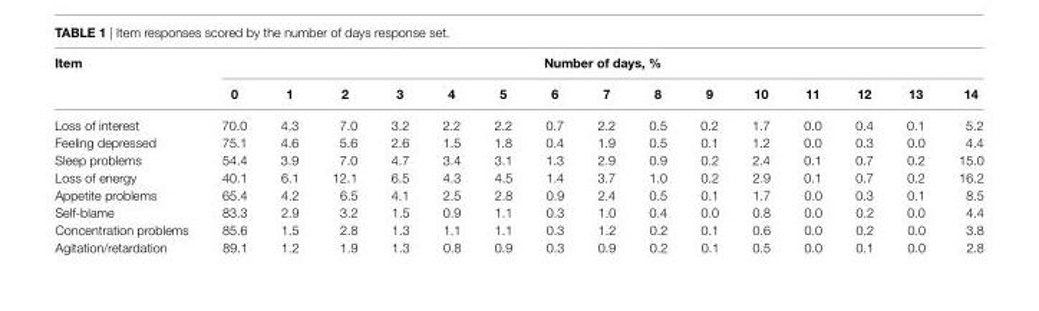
<table><thead><tr><td rowspan="2">item</td><td colspan="15">number of days, %</td></tr><tr><td>0</td><td>1</td><td>2</td><td>3</td><td>4</td><td>5</td><td>6</td><td>7</td><td>8</td><td>9</td><td>10</td><td>11</td><td>12</td><td>13</td><td>14</td></tr></thead><tbody><tr><td>Loss of interest</td><td>70.0</td><td>4.3</td><td>7.0</td><td>3.2</td><td>2.2</td><td>2.2</td><td>0.7</td><td>2.2</td><td>0.5</td><td>0.2</td><td>1.7</td><td>0.0</td><td>0.4</td><td>0.1</td><td>5.2</td></tr><tr><td>Feeling depressed</td><td>75.1</td><td>4.6</td><td>5.6</td><td>2.6</td><td>1.5</td><td>1.8</td><td>0.4</td><td>1.9</td><td>0.5</td><td>0.1</td><td>1.2</td><td>0.0</td><td>0.3</td><td>0.0</td><td>4.4</td></tr><tr><td>Sleep problems</td><td>54.4</td><td>3.9</td><td>7.0</td><td>4.7</td><td>3.4</td><td>3.1</td><td>1.3</td><td>2.9</td><td>0.9</td><td>0.2</td><td>2.4</td><td>0.1</td><td>0.7</td><td>0.2</td><td>15.0</td></tr><tr><td>Loss of energy</td><td>40.1</td><td>6.1</td><td>12.1</td><td>6.5</td><td>4.3</td><td>4.5</td><td>1.4</td><td>3.7</td><td>1.0</td><td>0.2</td><td>2.9</td><td>0.1</td><td>0.7</td><td>0.2</td><td>16.2</td></tr><tr><td>Appetite problems</td><td>65.4</td><td>4.2</td><td>6.5</td><td>4.1</td><td>2.5</td><td>2.8</td><td>0.9</td><td>2.4</td><td>0.5</td><td>0.1</td><td>1.7</td><td>0.0</td><td>0.3</td><td>0.1</td><td>8.5</td></tr><tr><td>Self-blame</td><td>83.3</td><td>2.9</td><td>3.2</td><td>1.5</td><td>0.9</td><td>1.1</td><td>0.3</td><td>1.0</td><td>0.4</td><td>0.0</td><td>0.8</td><td>0.0</td><td>0.2</td><td>0.0</td><td>4.4</td></tr><tr><td>Concentration problems</td><td>85.6</td><td>1.5</td><td>2.8</td><td>1.3</td><td>1.1</td><td>1.1</td><td>0.3</td><td>1.2</td><td>0.2</td><td>0.1</td><td>0.6</td><td>0.0</td><td>0.2</td><td>0.0</td><td>3.8</td></tr><tr><td>Agitation/retardation</td><td>89.1</td><td>1.2</td><td>1.9</td><td>1.3</td><td>0.8</td><td>0.9</td><td>0.3</td><td>0.9</td><td>0.2</td><td>0.1</td><td>0.5</td><td>0.0</td><td>0.1</td><td>0.0</td><td>2.8</td></tr></tbody></table>